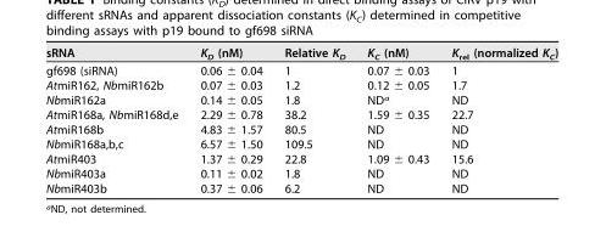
<table><thead><tr><td>sRNA</td><td>K<sub>D</sub> (nM)</td><td>Relative K<sub>D</sub></td><td>K<sub>C</sub> (nM)</td><td>K<sub>rel</sub> (normalized K<sub>C</sub>)</td></tr></thead><tbody><tr><td>gf698 (siRNA)</td><td>0.06 ± 0.04</td><td>1</td><td>0.07 ± 0.03</td><td>1</td></tr><tr><td>AtmiR162, NbmiR162b</td><td>0.07 ± 0.03</td><td>1.2</td><td>0.12 ± 0.05</td><td>1.7</td></tr><tr><td>NbmiR162a</td><td>0.14 ± 0.05</td><td>1.8</td><td>ND<sup>a</sup></td><td>ND</td></tr><tr><td>AtmiR168a, NbmiR168d,e</td><td>2.29 ± 0.78</td><td>38.2</td><td>1.59 ± 0.35</td><td>22.7</td></tr><tr><td>AtmiR168b</td><td>4.83 ± 1.57</td><td>80.5</td><td>ND</td><td>ND</td></tr><tr><td>NbmiR168a,b,c</td><td>6.57 ± 1.50</td><td>109.5</td><td>ND</td><td>ND</td></tr><tr><td>AtmiR403</td><td>1.37 ± 0.29</td><td>22.8</td><td>1.09 ± 0.43</td><td>15.6</td></tr><tr><td>NbmiR403a</td><td>0.11 ± 0.02</td><td>1.8</td><td>ND</td><td>ND</td></tr><tr><td>NbmiR403b</td><td>0.37 ± 0.06</td><td>6.2</td><td>ND</td><td>ND</td></tr></tbody></table>